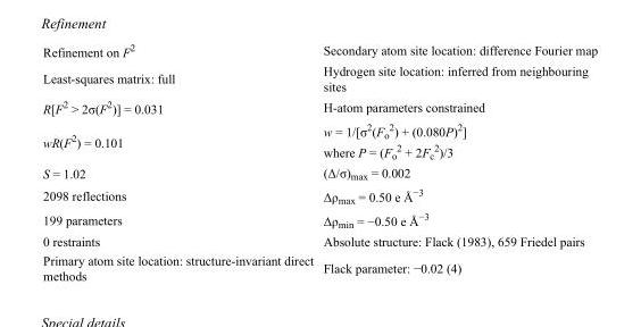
<table><tbody><tr><td>Refinement on F<sup>2</sup></td><td>Secondary atom site location: difference Fourier map</td></tr><tr><td>Least-squares matrix: full</td><td>Hydrogen site location: inferred from neighbouring sites</td></tr><tr><td>R[F<sup>2</sup> &gt; 2σ(F<sup>2</sup>)] = 0.031</td><td>H-atom parameters constrained</td></tr><tr><td>wR(F<sup>2</sup>) = 0.101</td><td>w = 1/[σ<sup>2</sup>(F<sub>o</sub> <sup>2</sup>) + (0.080P)<sup>2</sup>] where P = (F<sub>o</sub> <sup>2</sup> + 2F<sub>c</sub> <sup>2</sup>)/3</td></tr><tr><td>S = 1.02</td><td>(Δ/σ)<sub>max</sub> = 0.002</td></tr><tr><td>2098 reflections</td><td>Δρ<sub>max</sub> = 0.50 e Å<sup>−3</sup></td></tr><tr><td>199 parameters</td><td>Δρ<sub>min</sub> = −0.50 e Å<sup>−3</sup></td></tr><tr><td>0 restraints</td><td>Absolute structure: Flack (1983), 659 Friedel pairs</td></tr><tr><td>Primary atom site location: structure-invariant direct methods</td><td>Flack parameter: −0.02 (4)</td></tr></tbody></table>